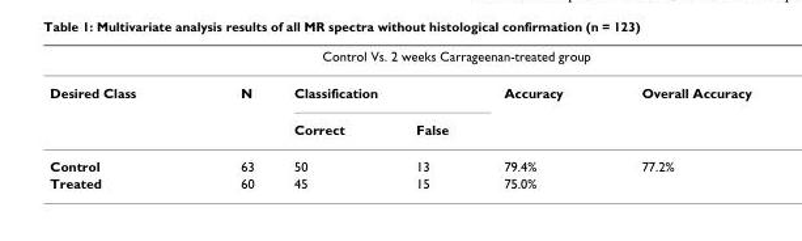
<table><thead><tr><td colspan="6">Control Vs. 2 weeks Carrageenan-treated group</td></tr><tr><td rowspan="2">Desired Class</td><td rowspan="2">N</td><td colspan="2">Classification</td><td rowspan="2">Accuracy</td><td rowspan="2">Overall Accuracy</td></tr><tr><td>Correct</td><td>False</td></tr></thead><tbody><tr><td>Control</td><td>63</td><td>50</td><td>13</td><td>79.4%</td><td>77.2%</td></tr><tr><td>Treated</td><td>60</td><td>45</td><td>15</td><td>75.0%</td><td></td></tr></tbody></table>